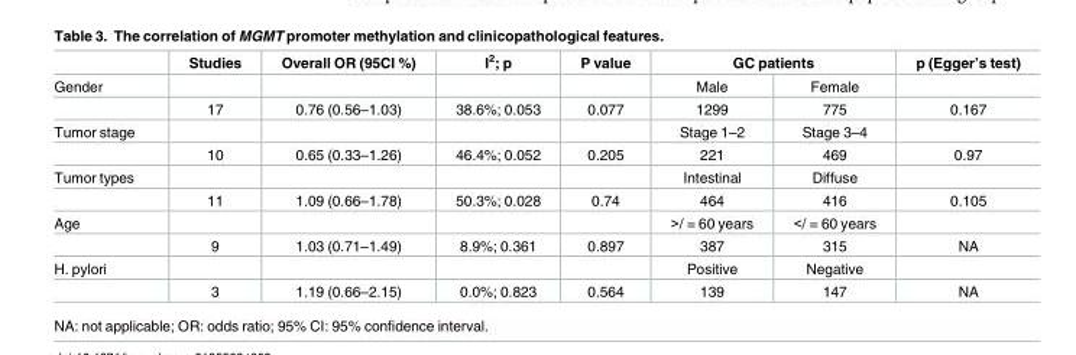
<table><thead><tr><td rowspan="2">Gender</td><td rowspan="2">Studies</td><td rowspan="2">Overall OR (95CI %)</td><td rowspan="2">I<sup>2</sup>; p</td><td rowspan="2">P value</td><td colspan="2">GC patients</td><td rowspan="2">p (Egger’s test)</td></tr><tr><td>Male</td><td>Female</td></tr></thead><tbody><tr><td></td><td>17</td><td>0.76 (0.56–1.03)</td><td>38.6%; 0.053</td><td>0.077</td><td>1299</td><td>775</td><td>0.167</td></tr><tr><td rowspan="2">Tumor stage</td><td></td><td></td><td></td><td></td><td>Stage 1–2</td><td>Stage 3–4</td><td></td></tr><tr><td>10</td><td>0.65 (0.33–1.26)</td><td>46.4%; 0.052</td><td>0.205</td><td>221</td><td>469</td><td>0.97</td></tr><tr><td rowspan="2">Tumor types</td><td></td><td></td><td></td><td></td><td>Intestinal</td><td>Diffuse</td><td></td></tr><tr><td>11</td><td>1.09 (0.66–1.78)</td><td>50.3%; 0.028</td><td>0.74</td><td>464</td><td>416</td><td>0.105</td></tr><tr><td rowspan="2">Age</td><td></td><td></td><td></td><td></td><td>&gt;/ = 60 years</td><td>&lt;/ = 60 years</td><td></td></tr><tr><td>9</td><td>1.03 (0.71–1.49)</td><td>8.9%; 0.361</td><td>0.897</td><td>387</td><td>315</td><td>NA</td></tr><tr><td rowspan="2">H. pylori</td><td></td><td></td><td></td><td></td><td>Positive</td><td>Negative</td><td></td></tr><tr><td>3</td><td>1.19 (0.66–2.15)</td><td>0.0%; 0.823</td><td>0.564</td><td>139</td><td>147</td><td>NA</td></tr></tbody></table>